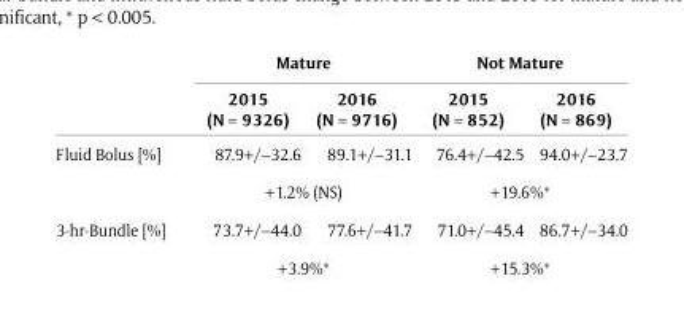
<table><thead><tr><td rowspan="2"></td><td colspan="2">Mature</td><td colspan="2">Not Mature</td></tr><tr><td>2015 (N = 9326)</td><td>2016 (N = 9716)</td><td>2015 (N = 852)</td><td>2016 (N = 869)</td></tr></thead><tbody><tr><td rowspan="2">Fluid Bolus [%]</td><td>87.9+/–32.6</td><td>89.1+/–31.1</td><td>76.4+/–42.5</td><td>94.0+/–23.7</td></tr><tr><td colspan="2">+1.2% (NS)</td><td colspan="2">+19.6%*</td></tr><tr><td rowspan="2">3-hr-Bundle [%]</td><td>73.7+/–44.0</td><td>77.6+/–41.7</td><td>71.0+/–45.4</td><td>86.7+/–34.0</td></tr><tr><td colspan="2">+3.9%*</td><td colspan="2">+15.3%*</td></tr></tbody></table>